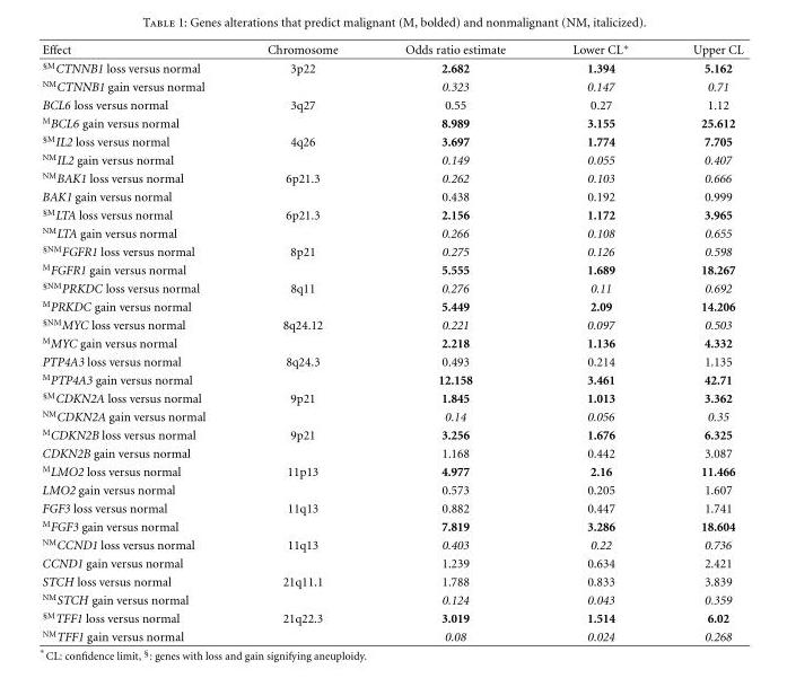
<table><thead><tr><td>Effect</td><td>Chromosome</td><td>Odds ratio estimate</td><td>Lower CL∗</td><td>Upper CL</td></tr></thead><tbody><tr><td><sup>§M</sup>CTNNB1 loss versus normal</td><td>3p22</td><td>2.682</td><td>1.394</td><td>5.162</td></tr><tr><td><sup>NM</sup>CTNNB1 gain versus normal</td><td></td><td>0.323</td><td>0.147</td><td>0.71</td></tr><tr><td>BCL6 loss versus normal</td><td>3q27</td><td>0.55</td><td>0.27</td><td>1.12</td></tr><tr><td><sup>M</sup>BCL6 gain versus normal</td><td></td><td>8.989</td><td>3.155</td><td>25.612</td></tr><tr><td><sup>§M</sup>IL2 loss versus normal</td><td>4q26</td><td>3.697</td><td>1.774</td><td>7.705</td></tr><tr><td><sup>NM</sup>IL2 gain versus normal</td><td></td><td>0.149</td><td>0.055</td><td>0.407</td></tr><tr><td><sup>NM</sup>BAK1 loss versus normal</td><td>6p21.3</td><td>0.262</td><td>0.103</td><td>0.666</td></tr><tr><td>BAK1 gain versus normal</td><td></td><td>0.438</td><td>0.192</td><td>0.999</td></tr><tr><td><sup>§M</sup>LTA loss versus normal</td><td>6p21.3</td><td>2.156</td><td>1.172</td><td>3.965</td></tr><tr><td><sup>NM</sup>LTA gain versus normal</td><td></td><td>0.266</td><td>0.108</td><td>0.655</td></tr><tr><td><sup>§NM</sup>FGFR1 loss versus normal</td><td>8p21</td><td>0.275</td><td>0.126</td><td>0.598</td></tr><tr><td><sup>M</sup>FGFR1 gain versus normal</td><td></td><td>5.555</td><td>1.689</td><td>18.267</td></tr><tr><td><sup>§NM</sup>PRKDC loss versus normal</td><td>8q11</td><td>0.276</td><td>0.11</td><td>0.692</td></tr><tr><td><sup>M</sup>PRKDC gain versus normal</td><td></td><td>5.449</td><td>2.09</td><td>14.206</td></tr><tr><td><sup>§NM</sup>MYC loss versus normal</td><td>8q24.12</td><td>0.221</td><td>0.097</td><td>0.503</td></tr><tr><td><sup>M</sup>MYC gain versus normal</td><td></td><td>2.218</td><td>1.136</td><td>4.332</td></tr><tr><td>PTP4A3 loss versus normal</td><td>8q24.3</td><td>0.493</td><td>0.214</td><td>1.135</td></tr><tr><td><sup>M</sup>PTP4A3 gain versus normal</td><td></td><td>12.158</td><td>3.461</td><td>42.71</td></tr><tr><td><sup>§M</sup>CDKN2A loss versus normal</td><td>9p21</td><td>1.845</td><td>1.013</td><td>3.362</td></tr><tr><td><sup>NM</sup>CDKN2A gain versus normal</td><td></td><td>0.14</td><td>0.056</td><td>0.35</td></tr><tr><td><sup>M</sup>CDKN2B loss versus normal</td><td>9p21</td><td>3.256</td><td>1.676</td><td>6.325</td></tr><tr><td>CDKN2B gain versus normal</td><td></td><td>1.168</td><td>0.442</td><td>3.087</td></tr><tr><td><sup>M</sup>LMO2 loss versus normal</td><td>11p13</td><td>4.977</td><td>2.16</td><td>11.466</td></tr><tr><td>LMO2 gain versus normal</td><td></td><td>0.573</td><td>0.205</td><td>1.607</td></tr><tr><td>FGF3 loss versus normal</td><td>11q13</td><td>0.882</td><td>0.447</td><td>1.741</td></tr><tr><td><sup>M</sup>FGF3 gain versus normal</td><td></td><td>7.819</td><td>3.286</td><td>18.604</td></tr><tr><td><sup>NM</sup>CCND1 loss versus normal</td><td>11q13</td><td>0.403</td><td>0.22</td><td>0.736</td></tr><tr><td>CCND1 gain versus normal</td><td></td><td>1.239</td><td>0.634</td><td>2.421</td></tr><tr><td>STCH loss versus normal</td><td>21q11.1</td><td>1.788</td><td>0.833</td><td>3.839</td></tr><tr><td><sup>NM</sup>STCH gain versus normal</td><td></td><td>0.124</td><td>0.043</td><td>0.359</td></tr><tr><td><sup>§M</sup>TFF1 loss versus normal</td><td>21q22.3</td><td>3.019</td><td>1.514</td><td>6.02</td></tr><tr><td><sup>NM</sup>TFF1 gain versus normal</td><td></td><td>0.08</td><td>0.024</td><td>0.268</td></tr></tbody></table>